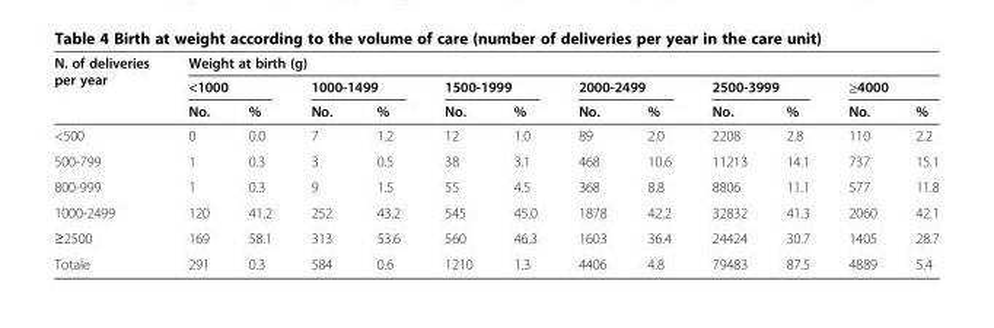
<table><thead><tr><td rowspan="3">N. of deliveries per year</td><td colspan="12">Weight at birth (g)</td></tr><tr><td colspan="2">&lt;1000</td><td colspan="2">1000-1499</td><td colspan="2">1500-1999</td><td colspan="2">2000-2499</td><td colspan="2">2500-3999</td><td colspan="2">≥4000</td></tr><tr><td>No.</td><td>%</td><td>No.</td><td>%</td><td>No.</td><td>%</td><td>No.</td><td>%</td><td>No.</td><td>%</td><td>No.</td><td>%</td></tr></thead><tbody><tr><td>&lt;500</td><td>0</td><td>0.0</td><td>7</td><td>1.2</td><td>12</td><td>1.0</td><td>89</td><td>2.0</td><td>2208</td><td>2.8</td><td>110</td><td>2.2</td></tr><tr><td>500-799</td><td>1</td><td>0.3</td><td>3</td><td>0.5</td><td>38</td><td>3.1</td><td>468</td><td>10.6</td><td>11213</td><td>14.1</td><td>737</td><td>15.1</td></tr><tr><td>800-999</td><td>1</td><td>0.3</td><td>9</td><td>1.5</td><td>55</td><td>4.5</td><td>368</td><td>8.8</td><td>8806</td><td>11.1</td><td>577</td><td>11.8</td></tr><tr><td>1000-2499</td><td>120</td><td>41.2</td><td>252</td><td>43.2</td><td>545</td><td>45.0</td><td>1878</td><td>42.2</td><td>32832</td><td>41.3</td><td>2060</td><td>42.1</td></tr><tr><td>≥2500</td><td>169</td><td>58.1</td><td>313</td><td>53.6</td><td>560</td><td>46.3</td><td>1603</td><td>36.4</td><td>24424</td><td>30.7</td><td>1405</td><td>28.7</td></tr><tr><td>Totale</td><td>291</td><td>0.3</td><td>584</td><td>0.6</td><td>1210</td><td>1.3</td><td>4406</td><td>4.8</td><td>79483</td><td>87.5</td><td>4889</td><td>5.4</td></tr></tbody></table>